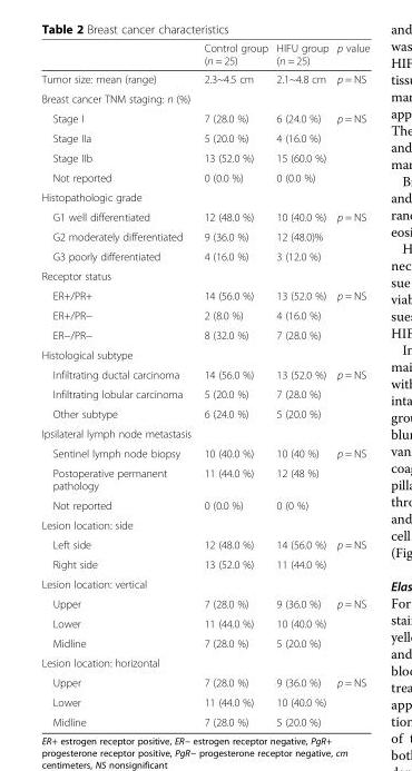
<table><thead><tr><td></td><td>Control group (n = 25)</td><td>HIFU group (n = 25)</td><td>p value</td></tr></thead><tbody><tr><td>Tumor size: mean (range)</td><td>2.3~4.5 cm</td><td>2.1~4.8 cm</td><td>p = NS</td></tr><tr><td colspan="4">Breast cancer TNM staging: n (%)</td></tr><tr><td>Stage I</td><td>7 (28.0 %)</td><td>6 (24.0 %)</td><td>p = NS</td></tr><tr><td>Stage IIa</td><td>5 (20.0 %)</td><td>4 (16.0 %)</td><td></td></tr><tr><td>Stage IIb</td><td>13 (52.0 %)</td><td>15 (60.0 %)</td><td></td></tr><tr><td>Not reported</td><td>0 (0.0 %)</td><td>0 (0.0 %)</td><td></td></tr><tr><td colspan="4">Histopathologic grade</td></tr><tr><td>G1 well differentiated</td><td>12 (48.0 %)</td><td>10 (40.0 %)</td><td>p = NS</td></tr><tr><td>G2 moderately differentiated</td><td>9 (36.0 %)</td><td>12 (48.0)%</td><td></td></tr><tr><td>G3 poorly differentiated</td><td>4 (16.0 %)</td><td>3 (12.0 %)</td><td></td></tr><tr><td colspan="4">Receptor status</td></tr><tr><td>ER+/PR+</td><td>14 (56.0 %)</td><td>13 (52.0 %)</td><td>p = NS</td></tr><tr><td>ER+/PR−</td><td>2 (8.0 %)</td><td>4 (16.0 %)</td><td></td></tr><tr><td>ER−/PR−</td><td>8 (32.0 %)</td><td>7 (28.0 %)</td><td></td></tr><tr><td colspan="4">Histological subtype</td></tr><tr><td>Infiltrating ductal carcinoma</td><td>14 (56.0 %)</td><td>13 (52.0 %)</td><td>p = NS</td></tr><tr><td>Infiltrating lobular carcinoma</td><td>5 (20.0 %)</td><td>7 (28.0 %)</td><td></td></tr><tr><td>Other subtype</td><td>6 (24.0 %)</td><td>5 (20.0 %)</td><td></td></tr><tr><td colspan="4">Ipsilateral lymph node metastasis</td></tr><tr><td>Sentinel lymph node biopsy</td><td>10 (40.0 %)</td><td>10 (40 %)</td><td>p = NS</td></tr><tr><td>Postoperative permanent pathology</td><td>11 (44.0 %)</td><td>12 (48 %)</td><td></td></tr><tr><td>Not reported</td><td>0 (0.0 %)</td><td>0 (0 %)</td><td></td></tr><tr><td colspan="4">Lesion location: side</td></tr><tr><td>Left side</td><td>12 (48.0 %)</td><td>14 (56.0 %)</td><td>p = NS</td></tr><tr><td>Right side</td><td>13 (52.0 %)</td><td>11 (44.0 %)</td><td></td></tr><tr><td colspan="4">Lesion location: vertical</td></tr><tr><td>Upper</td><td>7 (28.0 %)</td><td>9 (36.0 %)</td><td>p = NS</td></tr><tr><td>Lower</td><td>11 (44.0 %)</td><td>10 (40.0 %)</td><td></td></tr><tr><td>Midline</td><td>7 (28.0 %)</td><td>5 (20.0 %)</td><td></td></tr><tr><td colspan="4">Lesion location: horizontal</td></tr><tr><td>Upper</td><td>7 (28.0 %)</td><td>9 (36.0 %)</td><td>p = NS</td></tr><tr><td>Lower</td><td>11 (44.0 %)</td><td>10 (40.0 %)</td><td></td></tr><tr><td>Midline</td><td>7 (28.0 %)</td><td>5 (20.0 %)</td><td></td></tr></tbody></table>